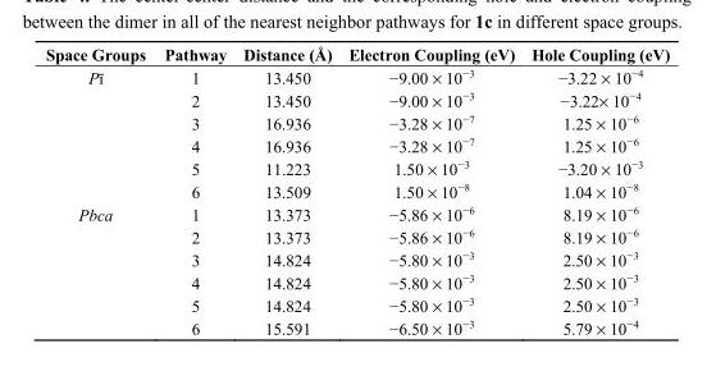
<table><thead><tr><td>Space Groups</td><td>Pathway</td><td>Distance (Å)</td><td>Electron Coupling (eV)</td><td>Hole Coupling (eV)</td></tr></thead><tbody><tr><td rowspan="6">Pī</td><td>1</td><td>13.450</td><td>−9.00 × 10<sup>−3</sup></td><td>−3.22 × 10<sup>−4</sup></td></tr><tr><td>2</td><td>13.450</td><td>−9.00 × 10<sup>−3</sup></td><td>−3.22× 10<sup>−4</sup></td></tr><tr><td>3</td><td>16.936</td><td>−3.28 × 10<sup>−7</sup></td><td>1.25 × 10<sup>−6</sup></td></tr><tr><td>4</td><td>16.936</td><td>−3.28 × 10<sup>−7</sup></td><td>1.25 × 10<sup>−6</sup></td></tr><tr><td>5</td><td>11.223</td><td>1.50 × 10<sup>−3</sup></td><td>−3.20 × 10<sup>−3</sup></td></tr><tr><td>6</td><td>13.509</td><td>1.50 × 10<sup>−8</sup></td><td>1.04 × 10<sup>−8</sup></td></tr><tr><td rowspan="6">Pbca</td><td>1</td><td>13.373</td><td>−5.86 × 10<sup>−6</sup></td><td>8.19 × 10<sup>−6</sup></td></tr><tr><td>2</td><td>13.373</td><td>−5.86 × 10<sup>−6</sup></td><td>8.19 × 10<sup>−6</sup></td></tr><tr><td>3</td><td>14.824</td><td>−5.80 × 10<sup>−3</sup></td><td>2.50 × 10<sup>−3</sup></td></tr><tr><td>4</td><td>14.824</td><td>−5.80 × 10<sup>−3</sup></td><td>2.50 × 10<sup>−3</sup></td></tr><tr><td>5</td><td>14.824</td><td>−5.80 × 10<sup>−3</sup></td><td>2.50 × 10<sup>−3</sup></td></tr><tr><td>6</td><td>15.591</td><td>−6.50 × 10<sup>−3</sup></td><td>5.79 × 10<sup>−4</sup></td></tr></tbody></table>